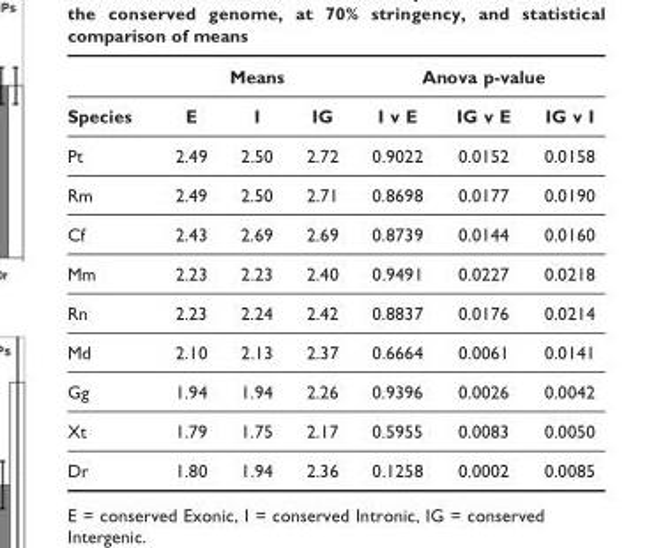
<table><thead><tr><td rowspan="2">Species</td><td colspan="3">Means</td><td colspan="3">Anova p-value</td></tr><tr><td>E</td><td>I</td><td>IG</td><td>I v E</td><td>IG v E</td><td>IG v I</td></tr></thead><tbody><tr><td>Pt</td><td>2.49</td><td>2.50</td><td>2.72</td><td>0.9022</td><td>0.0152</td><td>0.0158</td></tr><tr><td>Rm</td><td>2.49</td><td>2.50</td><td>2.71</td><td>0.8698</td><td>0.0177</td><td>0.0190</td></tr><tr><td>Cf</td><td>2.43</td><td>2.69</td><td>2.69</td><td>0.8739</td><td>0.0144</td><td>0.0160</td></tr><tr><td>Mm</td><td>2.23</td><td>2.23</td><td>2.40</td><td>0.9491</td><td>0.0227</td><td>0.0218</td></tr><tr><td>Rn</td><td>2.23</td><td>2.24</td><td>2.42</td><td>0.8837</td><td>0.0176</td><td>0.0214</td></tr><tr><td>Md</td><td>2.10</td><td>2.13</td><td>2.37</td><td>0.6664</td><td>0.0061</td><td>0.0141</td></tr><tr><td>Gg</td><td>1.94</td><td>1.94</td><td>2.26</td><td>0.9396</td><td>0.0026</td><td>0.0042</td></tr><tr><td>Xt</td><td>1.79</td><td>1.75</td><td>2.17</td><td>0.5955</td><td>0.0083</td><td>0.0050</td></tr><tr><td>Dr</td><td>1.80</td><td>1.94</td><td>2.36</td><td>0.1258</td><td>0.0002</td><td>0.0085</td></tr></tbody></table>